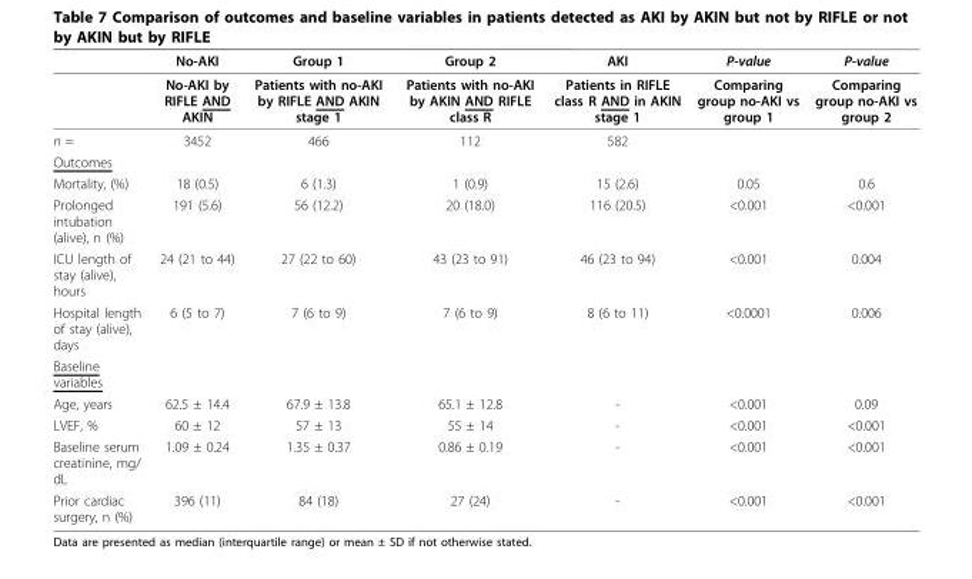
<table><thead><tr><td></td><td>No-AKI</td><td>Group 1</td><td>Group 2</td><td>AKI</td><td>P-value</td><td>P-value</td></tr></thead><tbody><tr><td></td><td>No-AKI by RIFLE AND AKIN</td><td>Patients with no-AKI by RIFLE AND AKIN stage 1</td><td>Patients with no-AKI by AKIN AND RIFLE class R</td><td>Patients in RIFLE class R AND in AKIN stage 1</td><td>Comparing group no-AKI vs group 1</td><td>Comparing group no-AKI vs group 2</td></tr><tr><td>n =</td><td>3452</td><td>466</td><td>112</td><td>582</td><td></td><td></td></tr><tr><td colspan="7">Outcomes</td></tr><tr><td>Mortality, (%)</td><td>18 (0.5)</td><td>6 (1.3)</td><td>1 (0.9)</td><td>15 (2.6)</td><td>0.05</td><td>0.6</td></tr><tr><td>Prolonged intubation (alive), n (%)</td><td>191 (5.6)</td><td>56 (12.2)</td><td>20 (18.0)</td><td>116 (20.5)</td><td>&lt;0.001</td><td>&lt;0.001</td></tr><tr><td>ICU length of stay (alive), hours</td><td>24 (21 to 44)</td><td>27 (22 to 60)</td><td>43 (23 to 91)</td><td>46 (23 to 94)</td><td>&lt;0.001</td><td>0.004</td></tr><tr><td>Hospital length of stay (alive), days</td><td>6 (5 to 7)</td><td>7 (6 to 9)</td><td>7 (6 to 9)</td><td>8 (6 to 11)</td><td>&lt;0.0001</td><td>0.006</td></tr><tr><td colspan="7">Baseline variables</td></tr><tr><td>Age, years</td><td>62.5 ± 14.4</td><td>67.9 ± 13.8</td><td>65.1 ± 12.8</td><td>-</td><td>&lt;0.001</td><td>0.09</td></tr><tr><td>LVEF, %</td><td>60 ± 12</td><td>57 ± 13</td><td>55 ± 14</td><td>-</td><td>&lt;0.001</td><td>&lt;0.001</td></tr><tr><td>Baseline serum creatinine, mg/ dL</td><td>1.09 ± 0.24</td><td>1.35 ± 0.37</td><td>0.86 ± 0.19</td><td>-</td><td>&lt;0.001</td><td>&lt;0.001</td></tr><tr><td>Prior cardiac surgery, n (%)</td><td>396 (11)</td><td>84 (18)</td><td>27 (24)</td><td>-</td><td>&lt;0.001</td><td>&lt;0.001</td></tr></tbody></table>